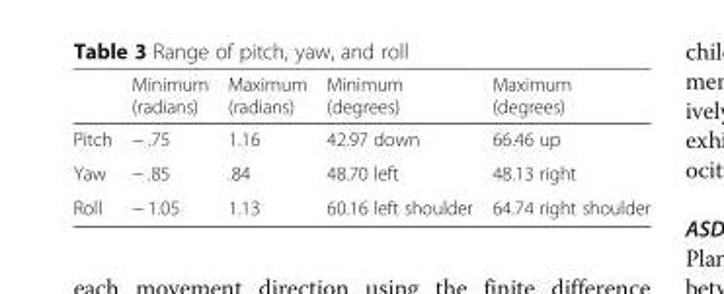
<table><thead><tr><td></td><td>Minimum (radians)</td><td>Maximum (radians)</td><td>Minimum (degrees)</td><td>Maximum (degrees)</td></tr></thead><tbody><tr><td>Pitch</td><td>− .75</td><td>1.16</td><td>42.97 down</td><td>66.46 up</td></tr><tr><td>Yaw</td><td>− .85</td><td>.84</td><td>48.70 left</td><td>48.13 right</td></tr><tr><td>Roll</td><td>− 1.05</td><td>1.13</td><td>60.16 left shoulder</td><td>64.74 right shoulder</td></tr></tbody></table>